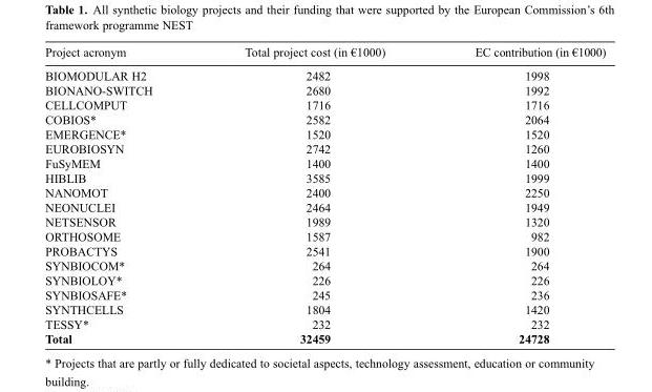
<table><thead><tr><td>Project acronym</td><td>Total project cost (in €1000)</td><td>EC contribution (in €1000)</td></tr></thead><tbody><tr><td>BIOMODULAR H2</td><td>2482</td><td>1998</td></tr><tr><td>BIONANO-SWITCH</td><td>2680</td><td>1992</td></tr><tr><td>CELLCOMPUT</td><td>1716</td><td>1716</td></tr><tr><td>COBIOS*</td><td>2582</td><td>2064</td></tr><tr><td>EMERGENCE*</td><td>1520</td><td>1520</td></tr><tr><td>EUROBIOSYN</td><td>2742</td><td>1260</td></tr><tr><td>FuSyMEM</td><td>1400</td><td>1400</td></tr><tr><td>HIBLIB</td><td>3585</td><td>1999</td></tr><tr><td>NANOMOT</td><td>2400</td><td>2250</td></tr><tr><td>NEONUCLEI</td><td>2464</td><td>1949</td></tr><tr><td>NETSENSOR</td><td>1989</td><td>1320</td></tr><tr><td>ORTHOSOME</td><td>1587</td><td>982</td></tr><tr><td>PROBACTYS</td><td>2541</td><td>1900</td></tr><tr><td>SYNBIOCOM*</td><td>264</td><td>264</td></tr><tr><td>SYNBIOLOY*</td><td>226</td><td>226</td></tr><tr><td>SYNBIOSAFE*</td><td>245</td><td>236</td></tr><tr><td>SYNTHCELLS</td><td>1804</td><td>1420</td></tr><tr><td>TESSY*</td><td>232</td><td>232</td></tr><tr><td>Total</td><td>32459</td><td>24728</td></tr></tbody></table>